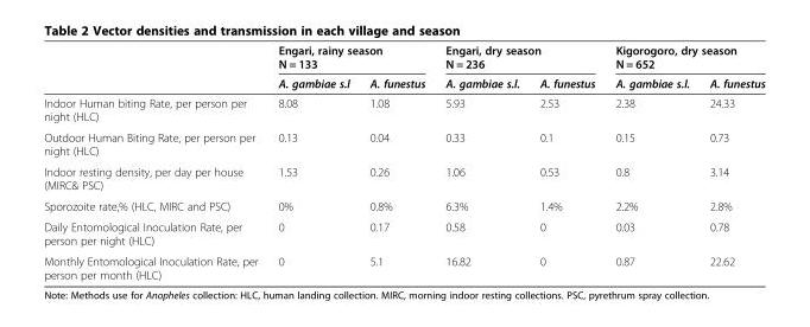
<table><thead><tr><td rowspan="2"></td><td colspan="2">Engari, rainy season N = 133</td><td colspan="2">Engari, dry season N = 236</td><td colspan="2">Kigorogoro, dry season N = 652</td></tr><tr><td>A. gambiae s.l</td><td>A. funestus</td><td>A. gambiae s.l.</td><td>A. funestus</td><td>A. gambiae s.l.</td><td>A. funestus</td></tr></thead><tbody><tr><td>Indoor Human biting Rate, per person per night (HLC)</td><td>8.08</td><td>1.08</td><td>5.93</td><td>2.53</td><td>2.38</td><td>24.33</td></tr><tr><td>Outdoor Human Biting Rate, per person per night (HLC)</td><td>0.13</td><td>0.04</td><td>0.33</td><td>0.1</td><td>0.15</td><td>0.73</td></tr><tr><td>Indoor resting density, per day per house (MIRC&amp; PSC)</td><td>1.53</td><td>0.26</td><td>1.06</td><td>0.53</td><td>0.8</td><td>3.14</td></tr><tr><td>Sporozoite rate,% (HLC, MIRC and PSC)</td><td>0%</td><td>0.8%</td><td>6.3%</td><td>1.4%</td><td>2.2%</td><td>2.8%</td></tr><tr><td>Daily Entomological Inoculation Rate, per person per night (HLC)</td><td>0</td><td>0.17</td><td>0.58</td><td>0</td><td>0.03</td><td>0.78</td></tr><tr><td>Monthly Entomological Inoculation Rate, per person per month (HLC)</td><td>0</td><td>5.1</td><td>16.82</td><td>0</td><td>0.87</td><td>22.62</td></tr></tbody></table>